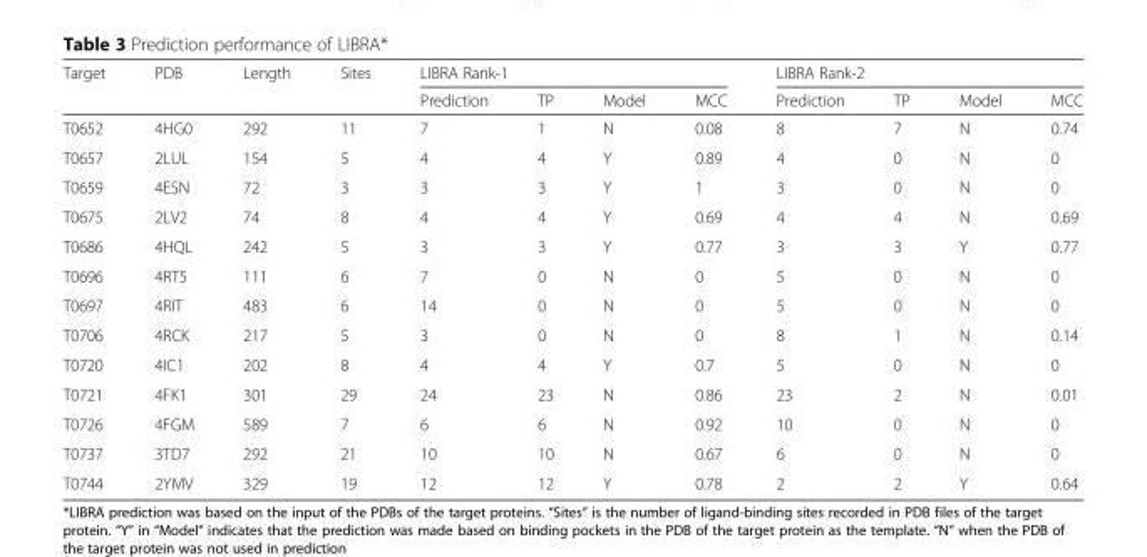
<table><thead><tr><td rowspan="2">Target</td><td rowspan="2">PDB</td><td rowspan="2">Length</td><td rowspan="2">Sites</td><td colspan="4">LIBRA Rank-1</td><td colspan="4">LIBRA Rank-2</td></tr><tr><td>Prediction</td><td>TP</td><td>Model</td><td>MCC</td><td>Prediction</td><td>TP</td><td>Model</td><td>MCC</td></tr></thead><tbody><tr><td>T0652</td><td>4HG0</td><td>292</td><td>11</td><td>7</td><td>1</td><td>N</td><td>0.08</td><td>8</td><td>7</td><td>N</td><td>0.74</td></tr><tr><td>T0657</td><td>2LUL</td><td>154</td><td>5</td><td>4</td><td>4</td><td>Y</td><td>0.89</td><td>4</td><td>0</td><td>N</td><td>0</td></tr><tr><td>T0659</td><td>4ESN</td><td>72</td><td>3</td><td>3</td><td>3</td><td>Y</td><td>1</td><td>3</td><td>0</td><td>N</td><td>0</td></tr><tr><td>T0675</td><td>2LV2</td><td>74</td><td>8</td><td>4</td><td>4</td><td>Y</td><td>0.69</td><td>4</td><td>4</td><td>N</td><td>0.69</td></tr><tr><td>T0686</td><td>4HQL</td><td>242</td><td>5</td><td>3</td><td>3</td><td>Y</td><td>0.77</td><td>3</td><td>3</td><td>Y</td><td>0.77</td></tr><tr><td>T0696</td><td>4RT5</td><td>111</td><td>6</td><td>7</td><td>0</td><td>N</td><td>0</td><td>5</td><td>0</td><td>N</td><td>0</td></tr><tr><td>T0697</td><td>4RIT</td><td>483</td><td>6</td><td>14</td><td>0</td><td>N</td><td>0</td><td>5</td><td>0</td><td>N</td><td>0</td></tr><tr><td>T0706</td><td>4RCK</td><td>217</td><td>5</td><td>3</td><td>0</td><td>N</td><td>0</td><td>8</td><td>1</td><td>N</td><td>0.14</td></tr><tr><td>T0720</td><td>4IC1</td><td>202</td><td>8</td><td>4</td><td>4</td><td>Y</td><td>0.7</td><td>5</td><td>0</td><td>N</td><td>0</td></tr><tr><td>T0721</td><td>4FK1</td><td>301</td><td>29</td><td>24</td><td>23</td><td>N</td><td>0.86</td><td>23</td><td>2</td><td>N</td><td>0.01</td></tr><tr><td>T0726</td><td>4FGM</td><td>589</td><td>7</td><td>6</td><td>6</td><td>N</td><td>0.92</td><td>10</td><td>0</td><td>N</td><td>0</td></tr><tr><td>T0737</td><td>3TD7</td><td>292</td><td>21</td><td>10</td><td>10</td><td>N</td><td>0.67</td><td>6</td><td>0</td><td>N</td><td>0</td></tr><tr><td>T0744</td><td>2YMV</td><td>329</td><td>19</td><td>12</td><td>12</td><td>Y</td><td>0.78</td><td>2</td><td>2</td><td>Y</td><td>0.64</td></tr></tbody></table>